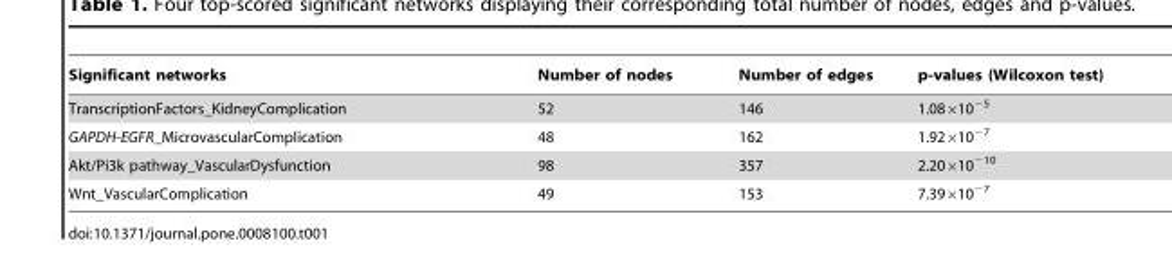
<table><thead><tr><td>Significant networks</td><td>Number of nodes</td><td>Number of edges</td><td>p-values (Wilcoxon test)</td></tr></thead><tbody><tr><td>TranscriptionFactors_KidneyComplication</td><td>52</td><td>146</td><td>1.08×10<sup>−5</sup></td></tr><tr><td>GAPDH-EGFR_MicrovascularComplication</td><td>48</td><td>162</td><td>1.92×10<sup>−7</sup></td></tr><tr><td>Akt/Pi3k pathway_VascularDysfunction</td><td>98</td><td>357</td><td>2.20×10<sup>−10</sup></td></tr><tr><td>Wnt_VascularComplication</td><td>49</td><td>153</td><td>7.39×10<sup>−7</sup></td></tr></tbody></table>